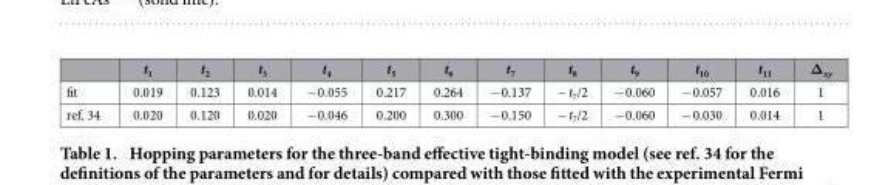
<table><thead><tr><td></td><td>t<sub>1</sub></td><td>t<sub>2</sub></td><td>t<sub>3</sub></td><td>t<sub>4</sub></td><td>t<sub>5</sub></td><td>t<sub>6</sub></td><td>t<sub>7</sub></td><td>t<sub>8</sub></td><td>t<sub>9</sub></td><td>t<sub>10</sub></td><td>t<sub>11</sub></td><td>Δ<sub>xy</sub></td></tr></thead><tbody><tr><td>fit</td><td>0.019</td><td>0.123</td><td>0.014</td><td>− 0.055</td><td>0.217</td><td>0.264</td><td>− 0.137</td><td>− t<sub>7</sub>/2</td><td>− 0.060</td><td>− 0.057</td><td>0.016</td><td>1</td></tr><tr><td>ref. 34</td><td>0.020</td><td>0.120</td><td>0.020</td><td>− 0.046</td><td>0.200</td><td>0.300</td><td>− 0.150</td><td>− t<sub>7</sub>/2</td><td>− 0.060</td><td>− 0.030</td><td>0.014</td><td>1</td></tr></tbody></table>